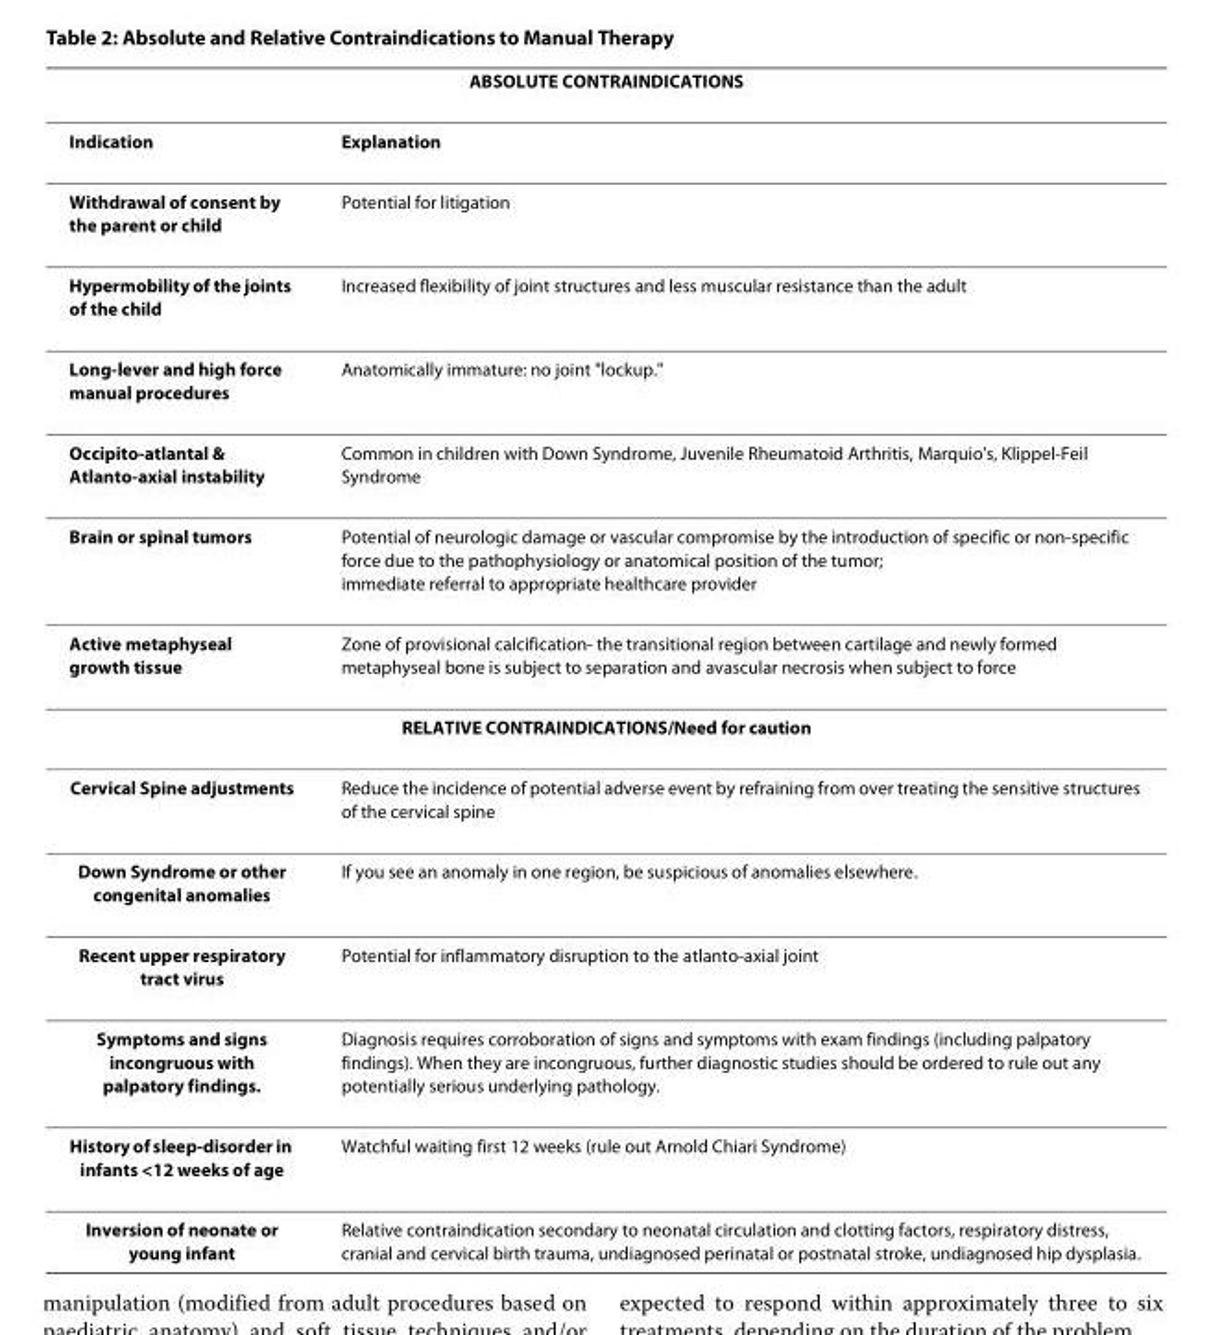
<table><thead><tr><td colspan="2">ABSOLUTE CONTRAINDICATIONS</td></tr><tr><td>Indication</td><td>Explanation</td></tr></thead><tbody><tr><td>Withdrawal of consent by the parent or child</td><td>Potential for litigation</td></tr><tr><td>Hypermobility of the joints of the child</td><td>Increased flexibility of joint structures and less muscular resistance than the adult</td></tr><tr><td>Long-lever and high force manual procedures</td><td>Anatomically immature: no joint &quot;lockup.&quot;</td></tr><tr><td>Occipito-atlantal &amp; Atlanto-axial instability</td><td>Common in children with Down Syndrome, Juvenile Rheumatoid Arthritis, Marquio&#x27;s, Klippel-Feil Syndrome</td></tr><tr><td>Brain or spinal tumors</td><td>Potential of neurologic damage or vascular compromise by the introduction of specific or non-specific force due to the pathophysiology or anatomical position of the tumor; immediate referral to appropriate healthcare provider</td></tr><tr><td>Active metaphyseal growth tissue</td><td>Zone of provisional calcification- the transitional region between cartilage and newly formed metaphyseal bone is subject to separation and avascular necrosis when subject to force</td></tr><tr><td colspan="2">RELATIVE CONTRAINDICATIONS/Need for caution</td></tr><tr><td>Cervical Spine adjustments</td><td>Reduce the incidence of potential adverse event by refraining from over treating the sensitive structures of the cervical spine</td></tr><tr><td>Down Syndrome or other congenital anomalies</td><td>If you see an anomaly in one region, be suspicious of anomalies elsewhere.</td></tr><tr><td>Recent upper respiratory tract virus</td><td>Potential for inflammatory disruption to the atlanto-axial joint</td></tr><tr><td>Symptoms and signs incongruous with palpatory findings.</td><td>Diagnosis requires corroboration of signs and symptoms with exam findings (including palpatory findings). When they are incongruous, further diagnostic studies should be ordered to rule out any potentially serious underlying pathology.</td></tr><tr><td>History of sleep-disorder in infants &lt;12 weeks of age</td><td>Watchful waiting first 12 weeks (rule out Arnold Chiari Syndrome)</td></tr><tr><td>Inversion of neonate or young infant</td><td>Relative contraindication secondary to neonatal circulation and clotting factors, respiratory distress, cranial and cervical birth trauma, undiagnosed perinatal or postnatal stroke, undiagnosed hip dysplasia.</td></tr></tbody></table>